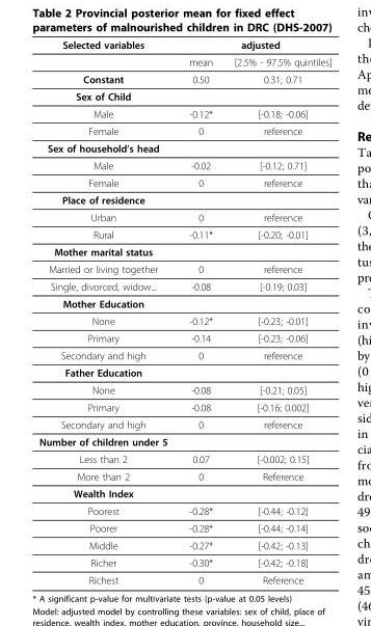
<table><thead><tr><td rowspan="2">Selected variables</td><td colspan="2">adjusted</td></tr><tr><td>mean</td><td>[2.5% - 97.5% quintiles]</td></tr></thead><tbody><tr><td>Constant</td><td>0.50</td><td>0.31; 0.71</td></tr><tr><td colspan="3">Sex of Child</td></tr><tr><td>Male</td><td>-0.12*</td><td>[-0.18; -0.06]</td></tr><tr><td>Female</td><td>0</td><td>reference</td></tr><tr><td colspan="3">Sex of household’s head</td></tr><tr><td>Male</td><td>-0.02</td><td>[-0.12; 0.71]</td></tr><tr><td>Female</td><td>0</td><td>reference</td></tr><tr><td colspan="3">Place of residence</td></tr><tr><td>Urban</td><td>0</td><td>reference</td></tr><tr><td>Rural</td><td>-0.11*</td><td>[-0.20; -0.01]</td></tr><tr><td colspan="3">Mother marital status</td></tr><tr><td>Married or living together</td><td>0</td><td>reference</td></tr><tr><td>Single, divorced, widow...</td><td>-0.08</td><td>[-0.19; 0.03]</td></tr><tr><td colspan="3">Mother Education</td></tr><tr><td>None</td><td>-0.12*</td><td>[-0.23; -0.01]</td></tr><tr><td>Primary</td><td>-0.14</td><td>[-0.23; -0.06]</td></tr><tr><td>Secondary and high</td><td>0</td><td>reference</td></tr><tr><td colspan="3">Father Education</td></tr><tr><td>None</td><td>-0.08</td><td>[-0.21; 0.05]</td></tr><tr><td>Primary</td><td>-0.08</td><td>[-0.16; 0.002]</td></tr><tr><td>Secondary and high</td><td>0</td><td>reference</td></tr><tr><td colspan="3">Number of children under 5</td></tr><tr><td>Less than 2</td><td>0.07</td><td>[-0.002; 0.15]</td></tr><tr><td>More than 2</td><td>0</td><td>Reference</td></tr><tr><td colspan="3">Wealth Index</td></tr><tr><td>Poorest</td><td>-0.28*</td><td>[-0.44; -0.12]</td></tr><tr><td>Poorer</td><td>-0.28*</td><td>[-0.44; -0.14]</td></tr><tr><td>Middle</td><td>-0.27*</td><td>[-0.42; -0.13]</td></tr><tr><td>Richer</td><td>-0.30*</td><td>[-0.42; -0.18]</td></tr><tr><td>Richest</td><td>0</td><td>Reference</td></tr></tbody></table>